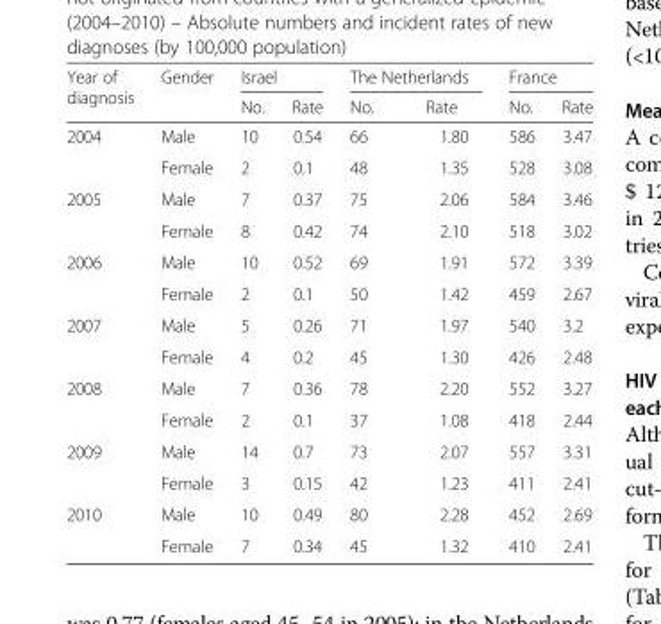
<table><thead><tr><td rowspan="2">Year of diagnosis</td><td rowspan="2">Gender</td><td colspan="2">Israel</td><td colspan="2">The Netherlands</td><td colspan="2">France</td></tr><tr><td>No.</td><td>Rate</td><td>No.</td><td>Rate</td><td>No.</td><td>Rate</td></tr></thead><tbody><tr><td rowspan="2">2004</td><td>Male</td><td>10</td><td>0.54</td><td>66</td><td>1.80</td><td>586</td><td>3.47</td></tr><tr><td>Female</td><td>2</td><td>0.1</td><td>48</td><td>1.35</td><td>528</td><td>3.08</td></tr><tr><td rowspan="2">2005</td><td>Male</td><td>7</td><td>0.37</td><td>75</td><td>2.06</td><td>584</td><td>3.46</td></tr><tr><td>Female</td><td>8</td><td>0.42</td><td>74</td><td>2.10</td><td>518</td><td>3.02</td></tr><tr><td rowspan="2">2006</td><td>Male</td><td>10</td><td>0.52</td><td>69</td><td>1.91</td><td>572</td><td>3.39</td></tr><tr><td>Female</td><td>2</td><td>0.1</td><td>50</td><td>1.42</td><td>459</td><td>2.67</td></tr><tr><td rowspan="2">2007</td><td>Male</td><td>5</td><td>0.26</td><td>71</td><td>1.97</td><td>540</td><td>3.2</td></tr><tr><td>Female</td><td>4</td><td>0.2</td><td>45</td><td>1.30</td><td>426</td><td>2.48</td></tr><tr><td rowspan="2">2008</td><td>Male</td><td>7</td><td>0.36</td><td>78</td><td>2.20</td><td>552</td><td>3.27</td></tr><tr><td>Female</td><td>2</td><td>0.1</td><td>37</td><td>1.08</td><td>418</td><td>2.44</td></tr><tr><td rowspan="2">2009</td><td>Male</td><td>14</td><td>0.7</td><td>73</td><td>2.07</td><td>557</td><td>3.31</td></tr><tr><td>Female</td><td>3</td><td>0.15</td><td>42</td><td>1.23</td><td>411</td><td>2.41</td></tr><tr><td rowspan="2">2010</td><td>Male</td><td>10</td><td>0.49</td><td>80</td><td>2.28</td><td>452</td><td>2.69</td></tr><tr><td>Female</td><td>7</td><td>0.34</td><td>45</td><td>1.32</td><td>410</td><td>2.41</td></tr></tbody></table>